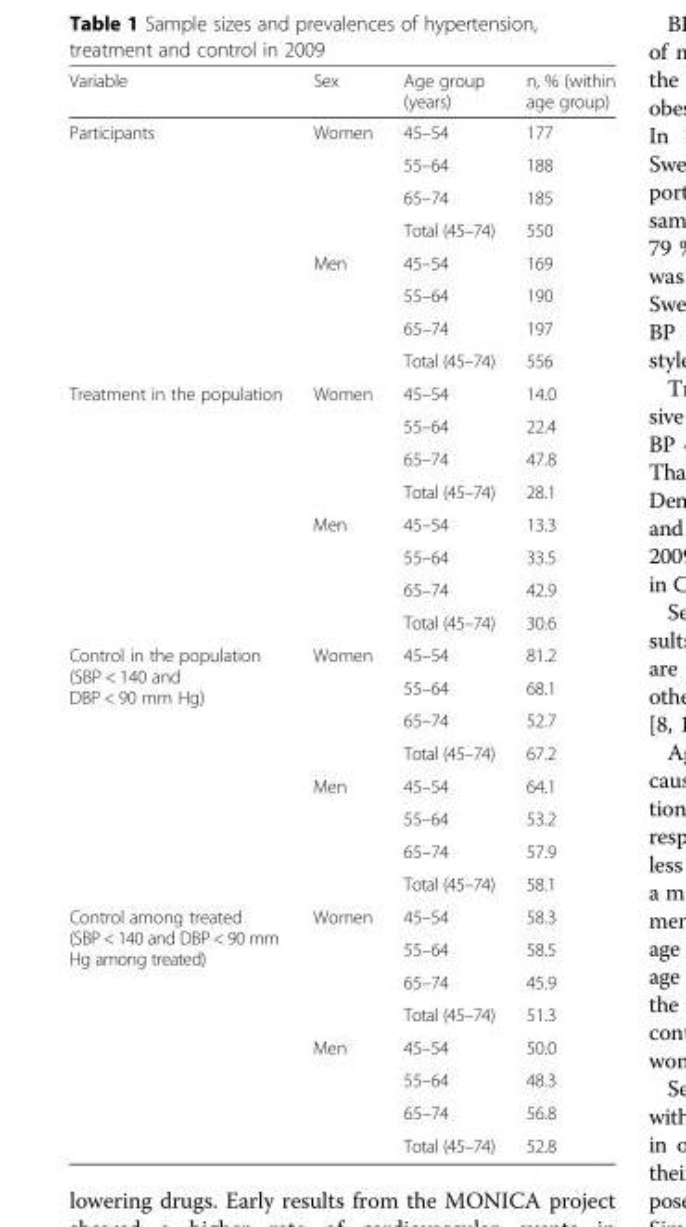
<table><thead><tr><td>Variable</td><td>Sex</td><td>Age group (years)</td><td>n, % (within age group)</td></tr></thead><tbody><tr><td rowspan="8">Participants</td><td rowspan="4">Women</td><td>45–54</td><td>177</td></tr><tr><td>55–64</td><td>188</td></tr><tr><td>65–74</td><td>185</td></tr><tr><td>Total (45–74)</td><td>550</td></tr><tr><td rowspan="4">Men</td><td>45–54</td><td>169</td></tr><tr><td>55–64</td><td>190</td></tr><tr><td>65–74</td><td>197</td></tr><tr><td>Total (45–74)</td><td>556</td></tr><tr><td rowspan="8">Treatment in the population</td><td rowspan="4">Women</td><td>45–54</td><td>14.0</td></tr><tr><td>55–64</td><td>22.4</td></tr><tr><td>65–74</td><td>47.8</td></tr><tr><td>Total (45–74)</td><td>28.1</td></tr><tr><td rowspan="4">Men</td><td>45–54</td><td>13.3</td></tr><tr><td>55–64</td><td>33.5</td></tr><tr><td>65–74</td><td>42.9</td></tr><tr><td>Total (45–74)</td><td>30.6</td></tr><tr><td rowspan="8">Control in the population (SBP &lt; 140 and DBP &lt; 90 mm Hg)</td><td rowspan="4">Women</td><td>45–54</td><td>81.2</td></tr><tr><td>55–64</td><td>68.1</td></tr><tr><td>65–74</td><td>52.7</td></tr><tr><td>Total (45–74)</td><td>67.2</td></tr><tr><td rowspan="4">Men</td><td>45–54</td><td>64.1</td></tr><tr><td>55–64</td><td>53.2</td></tr><tr><td>65–74</td><td>57.9</td></tr><tr><td>Total (45–74)</td><td>58.1</td></tr><tr><td rowspan="8">Control among treated (SBP &lt; 140 and DBP &lt; 90 mm Hg among treated)</td><td rowspan="4">Women</td><td>45–54</td><td>58.3</td></tr><tr><td>55–64</td><td>58.5</td></tr><tr><td>65–74</td><td>45.9</td></tr><tr><td>Total (45–74)</td><td>51.3</td></tr><tr><td rowspan="4">Men</td><td>45–54</td><td>50.0</td></tr><tr><td>55–64</td><td>48.3</td></tr><tr><td>65–74</td><td>56.8</td></tr><tr><td>Total (45–74)</td><td>52.8</td></tr></tbody></table>